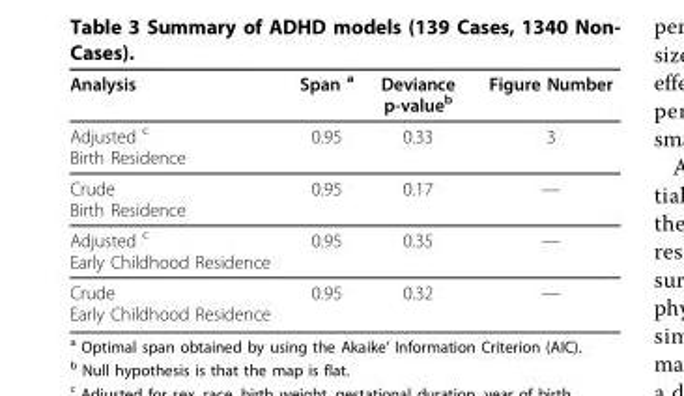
<table><thead><tr><td>Analysis</td><td>Span a</td><td>Deviance p-valueb</td><td>Figure Number</td></tr></thead><tbody><tr><td>Adjusted c Birth Residence</td><td>0.95</td><td>0.33</td><td>3</td></tr><tr><td>Crude Birth Residence</td><td>0.95</td><td>0.17</td><td>—</td></tr><tr><td>Adjusted c Early Childhood Residence</td><td>0.95</td><td>0.35</td><td>—</td></tr><tr><td>Crude Early Childhood Residence</td><td>0.95</td><td>0.32</td><td>—</td></tr></tbody></table>